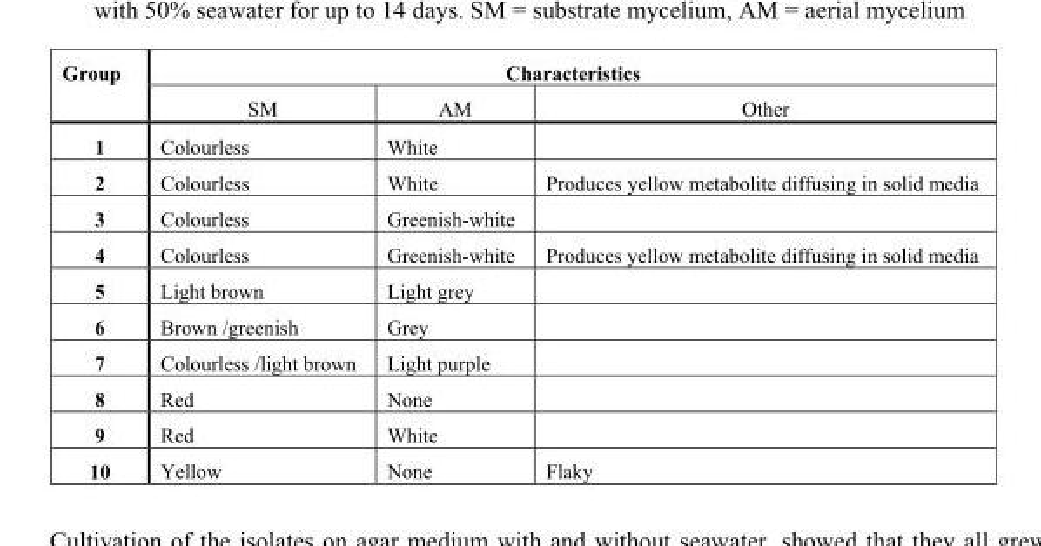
<table><thead><tr><td rowspan="2">Group</td><td colspan="3">Characteristics</td></tr><tr><td>SM</td><td>AM</td><td>Other</td></tr></thead><tbody><tr><td>1</td><td>Colourless</td><td>White</td><td></td></tr><tr><td>2</td><td>Colourless</td><td>White</td><td>Produces yellow metabolite diffusing in solid media</td></tr><tr><td>3</td><td>Colourless</td><td>Greenish-white</td><td></td></tr><tr><td>4</td><td>Colourless</td><td>Greenish-white</td><td>Produces yellow metabolite diffusing in solid media</td></tr><tr><td>5</td><td>Light brown</td><td>Light grey</td><td></td></tr><tr><td>6</td><td>Brown /greenish</td><td>Grey</td><td></td></tr><tr><td>7</td><td>Colourless /light brown</td><td>Light purple</td><td></td></tr><tr><td>8</td><td>Red</td><td>None</td><td></td></tr><tr><td>9</td><td>Red</td><td>White</td><td></td></tr><tr><td>10</td><td>Yellow</td><td>None</td><td>Flaky</td></tr></tbody></table>